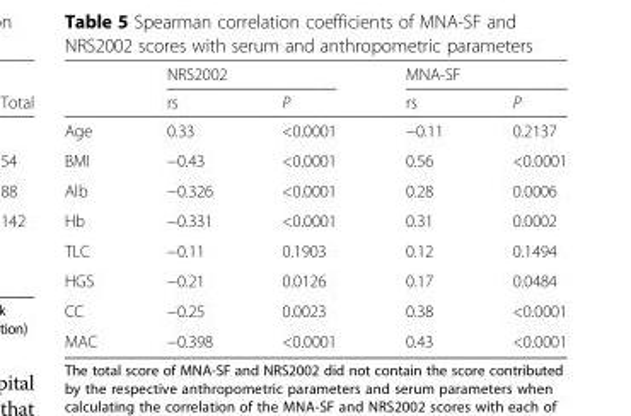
<table><thead><tr><td rowspan="2"></td><td colspan="2">NRS2002</td><td colspan="2">MNA-SF</td></tr><tr><td>rs</td><td>P</td><td>rs</td><td>P</td></tr></thead><tbody><tr><td>Age</td><td>0.33</td><td>&lt;0.0001</td><td>−0.11</td><td>0.2137</td></tr><tr><td>BMI</td><td>−0.43</td><td>&lt;0.0001</td><td>0.56</td><td>&lt;0.0001</td></tr><tr><td>Alb</td><td>−0.326</td><td>&lt;0.0001</td><td>0.28</td><td>0.0006</td></tr><tr><td>Hb</td><td>−0.331</td><td>&lt;0.0001</td><td>0.31</td><td>0.0002</td></tr><tr><td>TLC</td><td>−0.11</td><td>0.1903</td><td>0.12</td><td>0.1494</td></tr><tr><td>HGS</td><td>−0.21</td><td>0.0126</td><td>0.17</td><td>0.0484</td></tr><tr><td>CC</td><td>−0.25</td><td>0.0023</td><td>0.38</td><td>&lt;0.0001</td></tr><tr><td>MAC</td><td>−0.398</td><td>&lt;0.0001</td><td>0.43</td><td>&lt;0.0001</td></tr></tbody></table>